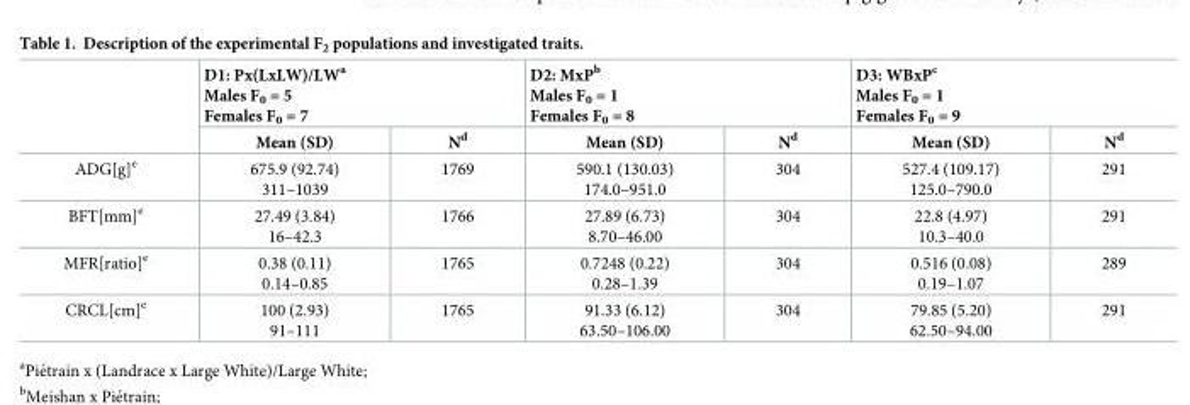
<table><thead><tr><td rowspan="2"></td><td colspan="2">D1: Px(LxLW)/LW<sup>a</sup> Males F<sub>0</sub> = 5 Females F<sub>0</sub> = 7</td><td colspan="2">D2: MxP<sup>b</sup> Males F<sub>0</sub> = 1 Females F<sub>0</sub> = 8</td><td colspan="2">D3: WBxP<sup>c</sup> Males F<sub>0</sub> = 1 Females F<sub>0</sub> = 9</td></tr><tr><td>Mean (SD)</td><td>N<sup>d</sup></td><td>Mean (SD)</td><td>N<sup>d</sup></td><td>Mean (SD)</td><td>N<sup>d</sup></td></tr></thead><tbody><tr><td>ADG[g]<sup>e</sup></td><td>675.9 (92.74) 311–1039</td><td>1769</td><td>590.1 (130.03) 174.0–951.0</td><td>304</td><td>527.4 (109.17) 125.0–790.0</td><td>291</td></tr><tr><td>BFT[mm]<sup>e</sup></td><td>27.49 (3.84) 16–42.3</td><td>1766</td><td>27.89 (6.73) 8.70–46.00</td><td>304</td><td>22.8 (4.97) 10.3–40.0</td><td>291</td></tr><tr><td>MFR[ratio]<sup>e</sup></td><td>0.38 (0.11) 0.14–0.85</td><td>1765</td><td>0.7248 (0.22) 0.28–1.39</td><td>304</td><td>0.516 (0.08) 0.19–1.07</td><td>289</td></tr><tr><td>CRCL[cm]<sup>e</sup></td><td>100 (2.93) 91–111</td><td>1765</td><td>91.33 (6.12) 63.50–106.00</td><td>304</td><td>79.85 (5.20) 62.50–94.00</td><td>291</td></tr></tbody></table>